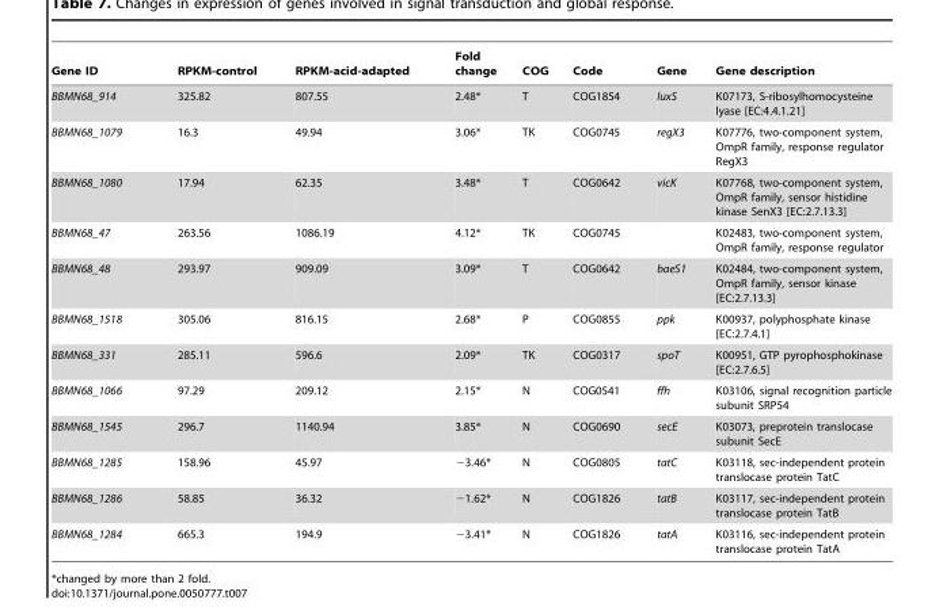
<table><thead><tr><td>Gene ID</td><td>RPKM-control</td><td>RPKM-acid-adapted</td><td>Fold change</td><td>COG</td><td>Code</td><td>Gene</td><td>Gene description</td></tr></thead><tbody><tr><td>BBMN68_914</td><td>325.82</td><td>807.55</td><td>2.48*</td><td>T</td><td>COG1854</td><td>luxS</td><td>K07173, S-ribosylhomocysteine lyase [EC:4.4.1.21]</td></tr><tr><td>BBMN68_1079</td><td>16.3</td><td>49.94</td><td>3.06*</td><td>TK</td><td>COG0745</td><td>regX3</td><td>K07776, two-component system, OmpR family, response regulator RegX3</td></tr><tr><td>BBMN68_1080</td><td>17.94</td><td>62.35</td><td>3.48*</td><td>T</td><td>COG0642</td><td>vicK</td><td>K07768, two-component system, OmpR family, sensor histidine kinase SenX3 [EC:2.7.13.3]</td></tr><tr><td>BBMN68_47</td><td>263.56</td><td>1086.19</td><td>4.12*</td><td>TK</td><td>COG0745</td><td></td><td>K02483, two-component system, OmpR family, response regulator</td></tr><tr><td>BBMN68_48</td><td>293.97</td><td>909.09</td><td>3.09*</td><td>T</td><td>COG0642</td><td>baeS1</td><td>K02484, two-component system, OmpR family, sensor kinase [EC:2.7.13.3]</td></tr><tr><td>BBMN68_1518</td><td>305.06</td><td>816.15</td><td>2.68*</td><td>P</td><td>COG0855</td><td>ppk</td><td>K00937, polyphosphate kinase [EC:2.7.4.1]</td></tr><tr><td>BBMN68_331</td><td>285.11</td><td>596.6</td><td>2.09*</td><td>TK</td><td>COG0317</td><td>spoT</td><td>K00951, GTP pyrophosphokinase [EC:2.7.6.5]</td></tr><tr><td>BBMN68_1066</td><td>97.29</td><td>209.12</td><td>2.15*</td><td>N</td><td>COG0541</td><td>ffh</td><td>K03106, signal recognition particle subunit SRP54</td></tr><tr><td>BBMN68_1545</td><td>296.7</td><td>1140.94</td><td>3.85*</td><td>N</td><td>COG0690</td><td>secE</td><td>K03073, preprotein translocase subunit SecE</td></tr><tr><td>BBMN68_1285</td><td>158.96</td><td>45.97</td><td>−3.46*</td><td>N</td><td>COG0805</td><td>tatC</td><td>K03118, sec-independent protein translocase protein TatC</td></tr><tr><td>BBMN68_1286</td><td>58.85</td><td>36.32</td><td>−1.62*</td><td>N</td><td>COG1826</td><td>tatB</td><td>K03117, sec-independent protein translocase protein TatB</td></tr><tr><td>BBMN68_1284</td><td>665.3</td><td>194.9</td><td>−3.41*</td><td>N</td><td>COG1826</td><td>tatA</td><td>K03116, sec-independent protein translocase protein TatA</td></tr></tbody></table>